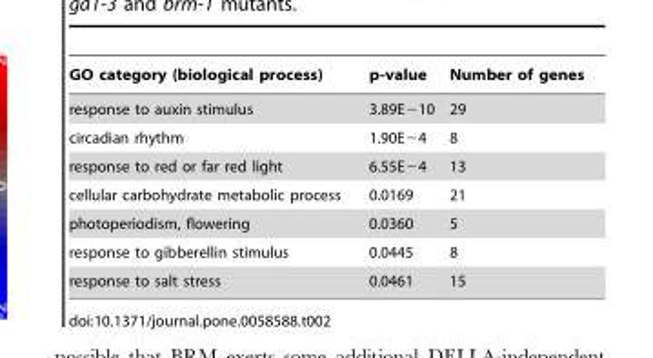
<table><thead><tr><td>GO category (biological process)</td><td>p-value</td><td>Number of genes</td></tr></thead><tbody><tr><td>response to auxin stimulus</td><td>3.89E−10</td><td>29</td></tr><tr><td>circadian rhythm</td><td>1.90E−4</td><td>8</td></tr><tr><td>response to red or far red light</td><td>6.55E−4</td><td>13</td></tr><tr><td>cellular carbohydrate metabolic process</td><td>0.0169</td><td>21</td></tr><tr><td>photoperiodism, flowering</td><td>0.0360</td><td>5</td></tr><tr><td>response to gibberellin stimulus</td><td>0.0445</td><td>8</td></tr><tr><td>response to salt stress</td><td>0.0461</td><td>15</td></tr></tbody></table>